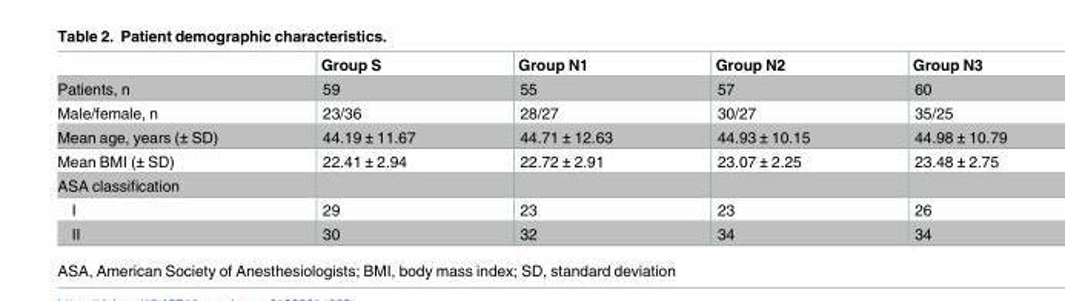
<table><thead><tr><td></td><td>Group S</td><td>Group N1</td><td>Group N2</td><td>Group N3</td></tr></thead><tbody><tr><td>Patients, n</td><td>59</td><td>55</td><td>57</td><td>60</td></tr><tr><td>Male/female, n</td><td>23/36</td><td>28/27</td><td>30/27</td><td>35/25</td></tr><tr><td>Mean age, years (± SD)</td><td>44.19 ± 11.67</td><td>44.71 ± 12.63</td><td>44.93 ± 10.15</td><td>44.98 ± 10.79</td></tr><tr><td>Mean BMI (± SD)</td><td>22.41 ± 2.94</td><td>22.72 ± 2.91</td><td>23.07 ± 2.25</td><td>23.48 ± 2.75</td></tr><tr><td colspan="5">ASA classification</td></tr><tr><td>I</td><td>29</td><td>23</td><td>23</td><td>26</td></tr><tr><td>II</td><td>30</td><td>32</td><td>34</td><td>34</td></tr></tbody></table>